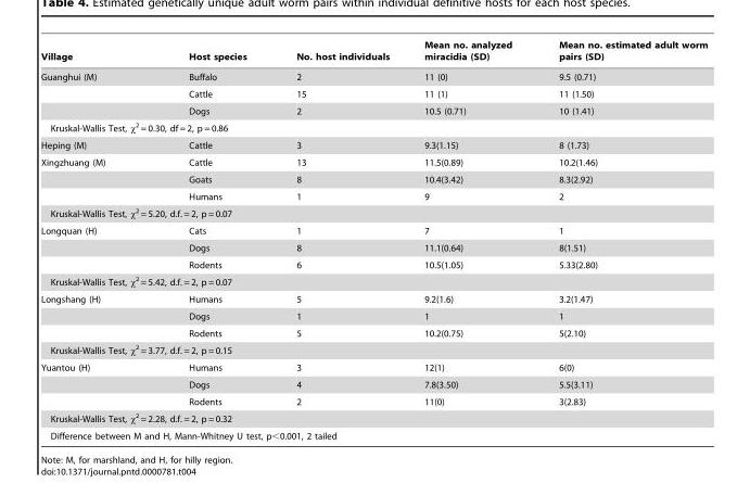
<table><thead><tr><td>Village</td><td>Host species</td><td>No. host individuals</td><td>Mean no. analyzed miracidia (SD)</td><td>Mean no. estimated adult worm pairs (SD)</td></tr></thead><tbody><tr><td rowspan="3">Guanghui (M)</td><td>Buffalo</td><td>2</td><td>11 (0)</td><td>9.5 (0.71)</td></tr><tr><td>Cattle</td><td>15</td><td>11 (1)</td><td>11 (1.50)</td></tr><tr><td>Dogs</td><td>2</td><td>10.5 (0.71)</td><td>10 (1.41)</td></tr><tr><td colspan="5">Kruskal-Wallis Test, χ<sup>2</sup> = 0.30, df = 2, p = 0.86</td></tr><tr><td>Heping (M)</td><td>Cattle</td><td>3</td><td>9.3(1.15)</td><td>8 (1.73)</td></tr><tr><td rowspan="3">Xingzhuang (M)</td><td>Cattle</td><td>13</td><td>11.5(0.89)</td><td>10.2(1.46)</td></tr><tr><td>Goats</td><td>8</td><td>10.4(3.42)</td><td>8.3(2.92)</td></tr><tr><td>Humans</td><td>1</td><td>9</td><td>2</td></tr><tr><td colspan="5">Kruskal-Wallis Test, χ<sup>2</sup> = 5.20, d.f. = 2, p = 0.07</td></tr><tr><td rowspan="3">Longquan (H)</td><td>Cats</td><td>1</td><td>7</td><td>1</td></tr><tr><td>Dogs</td><td>8</td><td>11.1(0.64)</td><td>8(1.51)</td></tr><tr><td>Rodents</td><td>6</td><td>10.5(1.05)</td><td>5.33(2.80)</td></tr><tr><td colspan="5">Kruskal-Wallis Test, χ<sup>2</sup> = 5.42, d.f. = 2, p = 0.07</td></tr><tr><td rowspan="3">Longshang (H)</td><td>Humans</td><td>5</td><td>9.2(1.6)</td><td>3.2(1.47)</td></tr><tr><td>Dogs</td><td>1</td><td>1</td><td>1</td></tr><tr><td>Rodents</td><td>5</td><td>10.2(0.75)</td><td>5(2.10)</td></tr><tr><td colspan="5">Kruskal-Wallis Test, χ<sup>2</sup> = 3.77, d.f. = 2, p = 0.15</td></tr><tr><td rowspan="3">Yuantou (H)</td><td>Humans</td><td>3</td><td>12(1)</td><td>6(0)</td></tr><tr><td>Dogs</td><td>4</td><td>7.8(3.50)</td><td>5.5(3.11)</td></tr><tr><td>Rodents</td><td>2</td><td>11(0)</td><td>3(2.83)</td></tr><tr><td colspan="5">Kruskal-Wallis Test, χ<sup>2</sup> = 2.28, d.f. = 2, p = 0.32</td></tr><tr><td colspan="5">Difference between M and H, Mann-Whitney U test, p&lt;0.001, 2 tailed</td></tr></tbody></table>